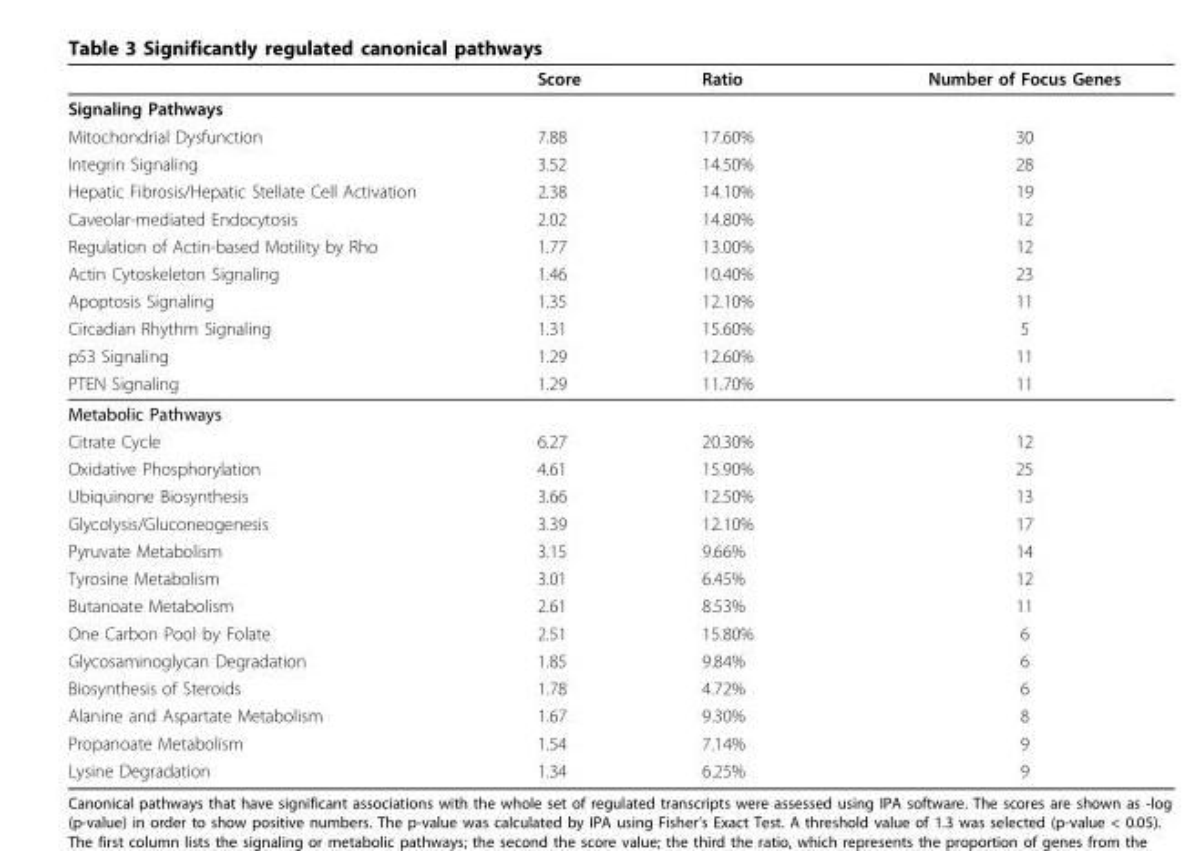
<table><thead><tr><td></td><td>Score</td><td>Ratio</td><td>Number of Focus Genes</td></tr></thead><tbody><tr><td colspan="4">Signaling Pathways</td></tr><tr><td>Mitochondrial Dysfunction</td><td>7.88</td><td>17.60%</td><td>30</td></tr><tr><td>Integrin Signaling</td><td>3.52</td><td>14.50%</td><td>28</td></tr><tr><td>Hepatic Fibrosis/Hepatic Stellate Cell Activation</td><td>2.38</td><td>14.10%</td><td>19</td></tr><tr><td>Caveolar-mediated Endocytosis</td><td>2.02</td><td>14.80%</td><td>12</td></tr><tr><td>Regulation of Actin-based Motility by Rho</td><td>1.77</td><td>13.00%</td><td>12</td></tr><tr><td>Actin Cytoskeleton Signaling</td><td>1.46</td><td>10.40%</td><td>23</td></tr><tr><td>Apoptosis Signaling</td><td>1.35</td><td>12.10%</td><td>11</td></tr><tr><td>Circadian Rhythm Signaling</td><td>1.31</td><td>15.60%</td><td>5</td></tr><tr><td>p53 Signaling</td><td>1.29</td><td>12.60%</td><td>11</td></tr><tr><td>PTEN Signaling</td><td>1.29</td><td>11.70%</td><td>11</td></tr><tr><td colspan="4">Metabolic Pathways</td></tr><tr><td>Citrate Cycle</td><td>6.27</td><td>20.30%</td><td>12</td></tr><tr><td>Oxidative Phosphorylation</td><td>4.61</td><td>15.90%</td><td>25</td></tr><tr><td>Ubiquinone Biosynthesis</td><td>3.66</td><td>12.50%</td><td>13</td></tr><tr><td>Glycolysis/Gluconeogenesis</td><td>3.39</td><td>12.10%</td><td>17</td></tr><tr><td>Pyruvate Metabolism</td><td>3.15</td><td>9.66%</td><td>14</td></tr><tr><td>Tyrosine Metabolism</td><td>3.01</td><td>6.45%</td><td>12</td></tr><tr><td>Butanoate Metabolism</td><td>2.61</td><td>8.53%</td><td>11</td></tr><tr><td>One Carbon Pool by Folate</td><td>2.51</td><td>15.80%</td><td>6</td></tr><tr><td>Glycosaminoglycan Degradation</td><td>1.85</td><td>9.84%</td><td>6</td></tr><tr><td>Biosynthesis of Steroids</td><td>1.78</td><td>4.72%</td><td>6</td></tr><tr><td>Alanine and Aspartate Metabolism</td><td>1.67</td><td>9.30%</td><td>8</td></tr><tr><td>Propanoate Metabolism</td><td>1.54</td><td>7.14%</td><td>9</td></tr><tr><td>Lysine Degradation</td><td>1.34</td><td>6.25%</td><td>9</td></tr></tbody></table>